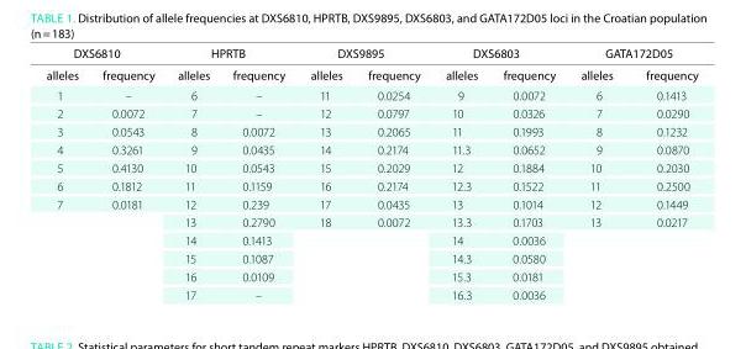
<table><thead><tr><td colspan="2">DXs6810</td><td colspan="2">hPrTB</td><td colspan="2">DXs9895</td><td colspan="2">DXs6803</td><td colspan="2">GaTa172D05</td></tr><tr><td>alleles</td><td>frequency</td><td>alleles</td><td>frequency</td><td>alleles</td><td>frequency</td><td>alleles</td><td>frequency</td><td>alleles</td><td>frequency</td></tr></thead><tbody><tr><td>1</td><td>–</td><td>6</td><td>–</td><td>11</td><td>0.0254</td><td>9</td><td>0.0072</td><td>6</td><td>0.1413</td></tr><tr><td>2</td><td>0.0072</td><td>7</td><td>–</td><td>12</td><td>0.0797</td><td>10</td><td>0.0326</td><td>7</td><td>0.0290</td></tr><tr><td>3</td><td>0.0543</td><td>8</td><td>0.0072</td><td>13</td><td>0.2065</td><td>11</td><td>0.1993</td><td>8</td><td>0.1232</td></tr><tr><td>4</td><td>0.3261</td><td>9</td><td>0.0435</td><td>14</td><td>0.2174</td><td>11.3</td><td>0.0652</td><td>9</td><td>0.0870</td></tr><tr><td>5</td><td>0.4130</td><td>10</td><td>0.0543</td><td>15</td><td>0.2029</td><td>12</td><td>0.1884</td><td>10</td><td>0.2030</td></tr><tr><td>6</td><td>0.1812</td><td>11</td><td>0.1159</td><td>16</td><td>0.2174</td><td>12.3</td><td>0.1522</td><td>11</td><td>0.2500</td></tr><tr><td rowspan="6">7</td><td>0.0181</td><td>12</td><td>0.239</td><td>17</td><td>0.0435</td><td>13</td><td>0.1014</td><td>12</td><td>0.1449</td></tr><tr><td></td><td>13</td><td>0.2790</td><td>18</td><td>0.0072</td><td>13.3</td><td>0.1703</td><td>13</td><td>0.0217</td></tr><tr><td></td><td>14</td><td>0.1413</td><td></td><td></td><td>14</td><td>0.0036</td><td></td><td></td></tr><tr><td></td><td>15</td><td>0.1087</td><td></td><td></td><td>14.3</td><td>0.0580</td><td></td><td></td></tr><tr><td></td><td>16</td><td>0.0109</td><td></td><td></td><td>15.3</td><td>0.0181</td><td></td><td></td></tr><tr><td></td><td>17</td><td>–</td><td></td><td></td><td>16.3</td><td>0.0036</td><td></td><td></td></tr></tbody></table>